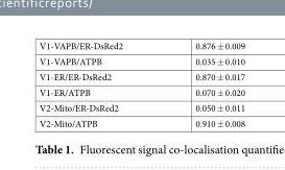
<table><tbody><tr><td>V1-VAPB/ER-DsRed2</td><td>0.876 ± 0.009</td></tr><tr><td>V1-VAPB/ATPB</td><td>0.035 ± 0.010</td></tr><tr><td>V1-ER/ER-DsRed2</td><td>0.870 ± 0.017</td></tr><tr><td>V1-ER/ATPB</td><td>0.070 ± 0.020</td></tr><tr><td>V2-Mito/ER-DsRed2</td><td>0.050 ± 0.011</td></tr><tr><td>V2-Mito/ATPB</td><td>0.910 ± 0.008</td></tr></tbody></table>